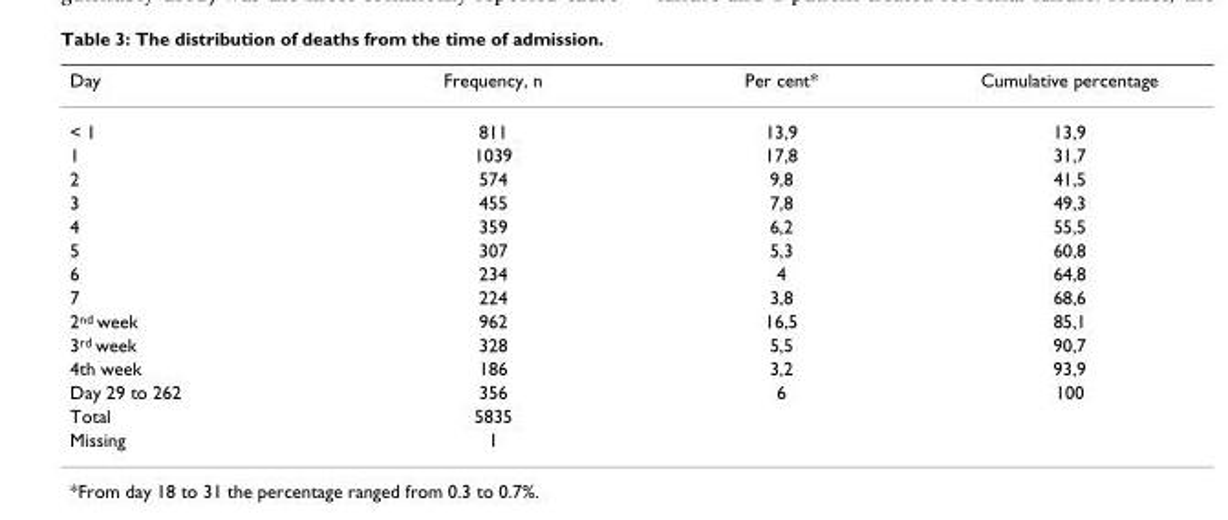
<table><thead><tr><td>Day</td><td>Frequency, n</td><td>Per cent*</td><td>Cumulative percentage</td></tr></thead><tbody><tr><td>&lt; 1</td><td>811</td><td>13,9</td><td>13,9</td></tr><tr><td>1</td><td>1039</td><td>17,8</td><td>31,7</td></tr><tr><td>2</td><td>574</td><td>9,8</td><td>41,5</td></tr><tr><td>3</td><td>455</td><td>7,8</td><td>49,3</td></tr><tr><td>4</td><td>359</td><td>6,2</td><td>55,5</td></tr><tr><td>5</td><td>307</td><td>5,3</td><td>60,8</td></tr><tr><td>6</td><td>234</td><td>4</td><td>64,8</td></tr><tr><td>7</td><td>224</td><td>3,8</td><td>68,6</td></tr><tr><td>2<sup>nd</sup> week</td><td>962</td><td>16,5</td><td>85,1</td></tr><tr><td>3<sup>rd</sup> week</td><td>328</td><td>5,5</td><td>90,7</td></tr><tr><td>4th week</td><td>186</td><td>3,2</td><td>93,9</td></tr><tr><td>Day 29 to 262</td><td>356</td><td>6</td><td>100</td></tr><tr><td>Total</td><td>5835</td><td></td><td></td></tr><tr><td>Missing</td><td>1</td><td></td><td></td></tr></tbody></table>